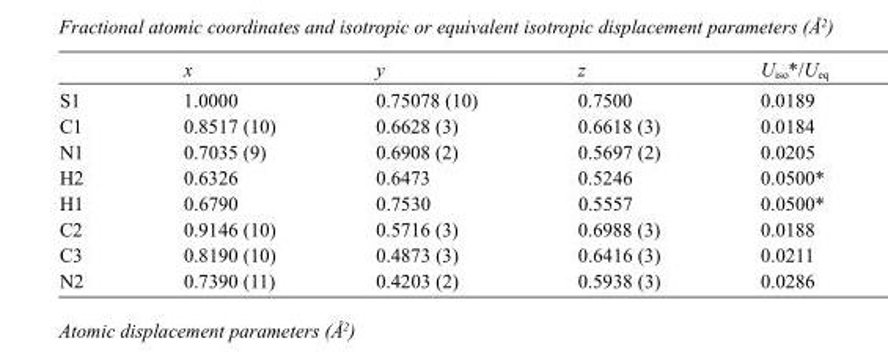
<table><thead><tr><td></td><td>x</td><td>y</td><td>z</td><td>U<sub>iso</sub>*/U<sub>eq</sub></td></tr></thead><tbody><tr><td>S1</td><td>1.0000</td><td>0.75078 (10)</td><td>0.7500</td><td>0.0189</td></tr><tr><td>C1</td><td>0.8517 (10)</td><td>0.6628 (3)</td><td>0.6618 (3)</td><td>0.0184</td></tr><tr><td>N1</td><td>0.7035 (9)</td><td>0.6908 (2)</td><td>0.5697 (2)</td><td>0.0205</td></tr><tr><td>H2</td><td>0.6326</td><td>0.6473</td><td>0.5246</td><td>0.0500*</td></tr><tr><td>H1</td><td>0.6790</td><td>0.7530</td><td>0.5557</td><td>0.0500*</td></tr><tr><td>C2</td><td>0.9146 (10)</td><td>0.5716 (3)</td><td>0.6988 (3)</td><td>0.0188</td></tr><tr><td>C3</td><td>0.8190 (10)</td><td>0.4873 (3)</td><td>0.6416 (3)</td><td>0.0211</td></tr><tr><td>N2</td><td>0.7390 (11)</td><td>0.4203 (2)</td><td>0.5938 (3)</td><td>0.0286</td></tr></tbody></table>